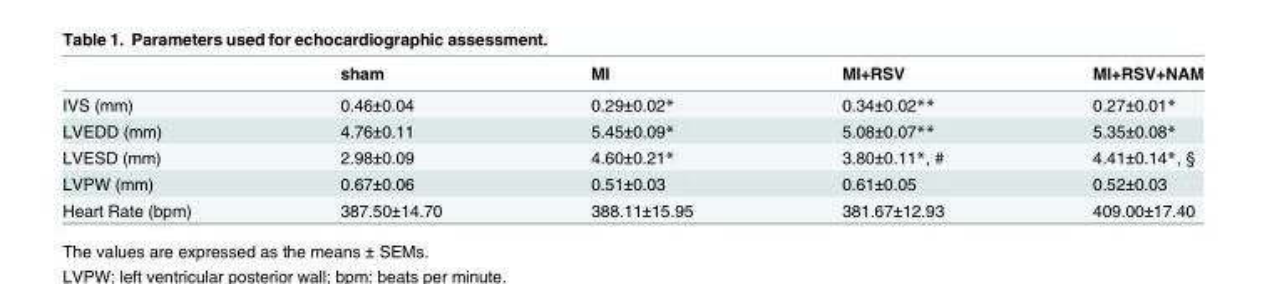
<table><thead><tr><td></td><td>sham</td><td>MI</td><td>MI+RSV</td><td>MI+RSV+NAM</td></tr></thead><tbody><tr><td>IVS (mm)</td><td>0.46±0.04</td><td>0.29±0.02*</td><td>0.34±0.02**</td><td>0.27±0.01*</td></tr><tr><td>LVEDD (mm)</td><td>4.76±0.11</td><td>5.45±0.09*</td><td>5.08±0.07**</td><td>5.35±0.08*</td></tr><tr><td>LVESD (mm)</td><td>2.98±0.09</td><td>4.60±0.21*</td><td>3.80±0.11*, #</td><td>4.41±0.14*, §</td></tr><tr><td>LVPW (mm)</td><td>0.67±0.06</td><td>0.51±0.03</td><td>0.61±0.05</td><td>0.52±0.03</td></tr><tr><td>Heart Rate (bpm)</td><td>387.50±14.70</td><td>388.11±15.95</td><td>381.67±12.93</td><td>409.00±17.40</td></tr></tbody></table>